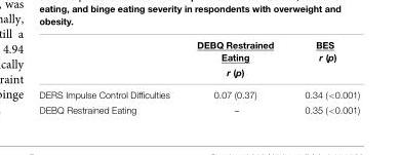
<table><thead><tr><td rowspan="3"></td><td rowspan="3">DEBQ Restrained Eating r (p)</td><td rowspan="3">BES r (p)</td></tr><tr></tr><tr></tr></thead><tbody><tr><td>DERS Impulse Control Difficulties</td><td>0.07 (0.37)</td><td>0.34 (&lt;0.001)</td></tr><tr><td>DEBQ Restrained Eating</td><td>–</td><td>0.35 (&lt;0.001)</td></tr></tbody></table>